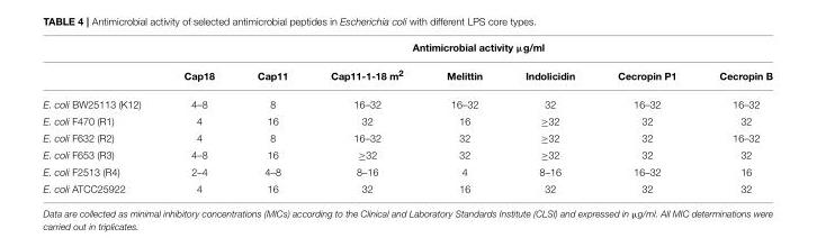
<table><thead><tr><td colspan="8">Antimicrobial activity µg/ml</td></tr><tr><td></td><td>Cap18</td><td>Cap11</td><td>Cap11-1-18 m<sup>2</sup></td><td>Melittin</td><td>Indolicidin</td><td>Cecropin P1</td><td>Cecropin B</td></tr></thead><tbody><tr><td>E. coli BW25113 (K12)</td><td>4–8</td><td>8</td><td>16–32</td><td>16–32</td><td>32</td><td>16–32</td><td>16–32</td></tr><tr><td>E. coli F470 (R1)</td><td>4</td><td>16</td><td>32</td><td>16</td><td>≥32</td><td>32</td><td>32</td></tr><tr><td>E. coli F632 (R2)</td><td>4</td><td>8</td><td>16–32</td><td>32</td><td>≥32</td><td>32</td><td>16–32</td></tr><tr><td>E. coli F653 (R3)</td><td>4–8</td><td>16</td><td>≥32</td><td>32</td><td>≥32</td><td>32</td><td>32</td></tr><tr><td>E. coli F2513 (R4)</td><td>2–4</td><td>4–8</td><td>8–16</td><td>4</td><td>8–16</td><td>16–32</td><td>16</td></tr><tr><td>E. coli ATCC25922</td><td>4</td><td>16</td><td>32</td><td>16</td><td>32</td><td>32</td><td>32</td></tr></tbody></table>